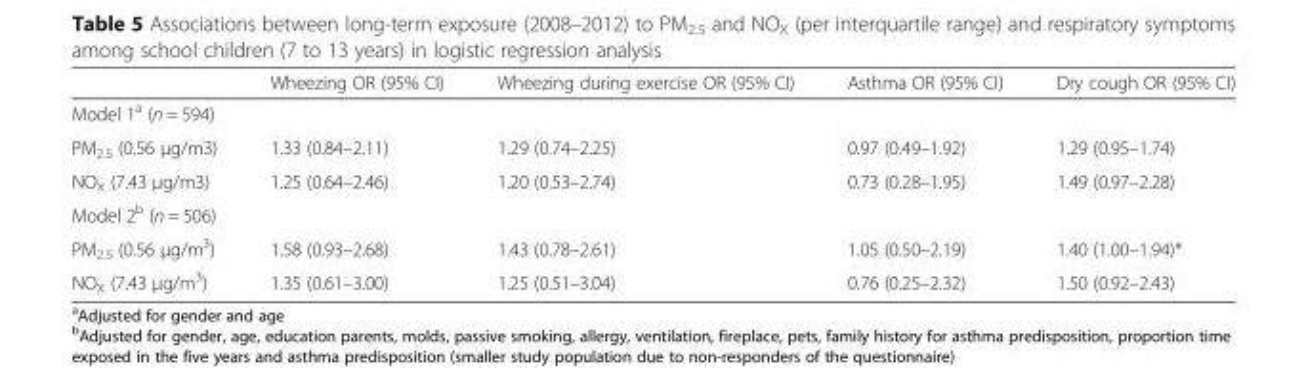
<table><thead><tr><td></td><td>Wheezing OR (95% CI)</td><td>Wheezing during exercise OR (95% CI)</td><td>Asthma OR (95% CI)</td><td>Dry cough OR (95% CI)</td></tr></thead><tbody><tr><td colspan="5">Model 1<sup>a</sup> (n = 594)</td></tr><tr><td>PM<sub>2.5</sub> (0.56 μg/m3)</td><td>1.33 (0.84–2.11)</td><td>1.29 (0.74–2.25)</td><td>0.97 (0.49–1.92)</td><td>1.29 (0.95–1.74)</td></tr><tr><td>NO<sub>X</sub> (7.43 μg/m3)</td><td>1.25 (0.64–2.46)</td><td>1.20 (0.53–2.74)</td><td>0.73 (0.28–1.95)</td><td>1.49 (0.97–2.28)</td></tr><tr><td colspan="5">Model 2<sup>b</sup> (n = 506)</td></tr><tr><td>PM<sub>2.5</sub> (0.56 μg/m<sup>3</sup>)</td><td>1.58 (0.93–2.68)</td><td>1.43 (0.78–2.61)</td><td>1.05 (0.50–2.19)</td><td>1.40 (1.00–1.94)*</td></tr><tr><td>NO<sub>X</sub> (7.43 μg/m<sup>3</sup>)</td><td>1.35 (0.61–3.00)</td><td>1.25 (0.51–3.04)</td><td>0.76 (0.25–2.32)</td><td>1.50 (0.92–2.43)</td></tr></tbody></table>